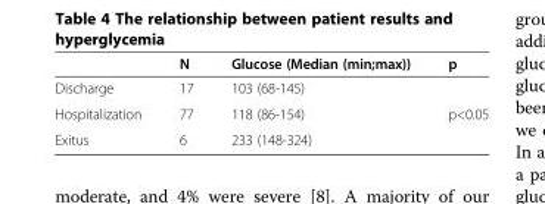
<table><thead><tr><td></td><td>N</td><td>Glucose (Median (min;max))</td><td>p</td></tr></thead><tbody><tr><td>Discharge</td><td>17</td><td>103 (68-145)</td><td rowspan="3">p&lt;0.05</td></tr><tr><td>Hospitalization</td><td>77</td><td>118 (86-154)</td></tr><tr><td>Exitus</td><td>6</td><td>233 (148-324)</td></tr></tbody></table>